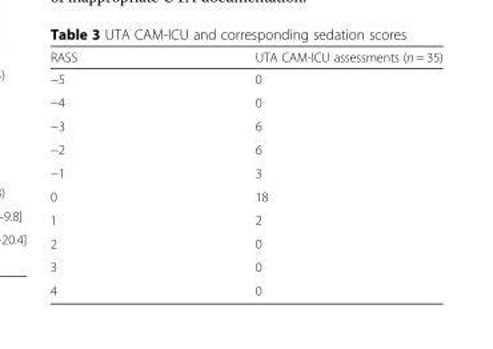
<table><thead><tr><td>RASS</td><td>UTA CAM-ICU assessments (n = 35)</td></tr></thead><tbody><tr><td>−5</td><td>0</td></tr><tr><td>−4</td><td>0</td></tr><tr><td>−3</td><td>6</td></tr><tr><td>−2</td><td>6</td></tr><tr><td>−1</td><td>3</td></tr><tr><td>0</td><td>18</td></tr><tr><td>1</td><td>2</td></tr><tr><td>2</td><td>0</td></tr><tr><td>3</td><td>0</td></tr><tr><td>4</td><td>0</td></tr></tbody></table>